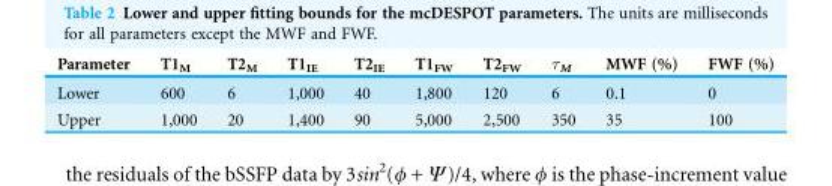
<table><thead><tr><td>Parameter</td><td>T1<sub>M</sub></td><td>T2<sub>M</sub></td><td>T1<sub>IE</sub></td><td>T2<sub>IE</sub></td><td>T1<sub>FW</sub></td><td>T2<sub>FW</sub></td><td>τ<sub>M</sub></td><td>MWF (%)</td><td>FWF (%)</td></tr></thead><tbody><tr><td>Lower</td><td>600</td><td>6</td><td>1,000</td><td>40</td><td>1,800</td><td>120</td><td>6</td><td>0.1</td><td>0</td></tr><tr><td>Upper</td><td>1,000</td><td>20</td><td>1,400</td><td>90</td><td>5,000</td><td>2,500</td><td>350</td><td>35</td><td>100</td></tr></tbody></table>